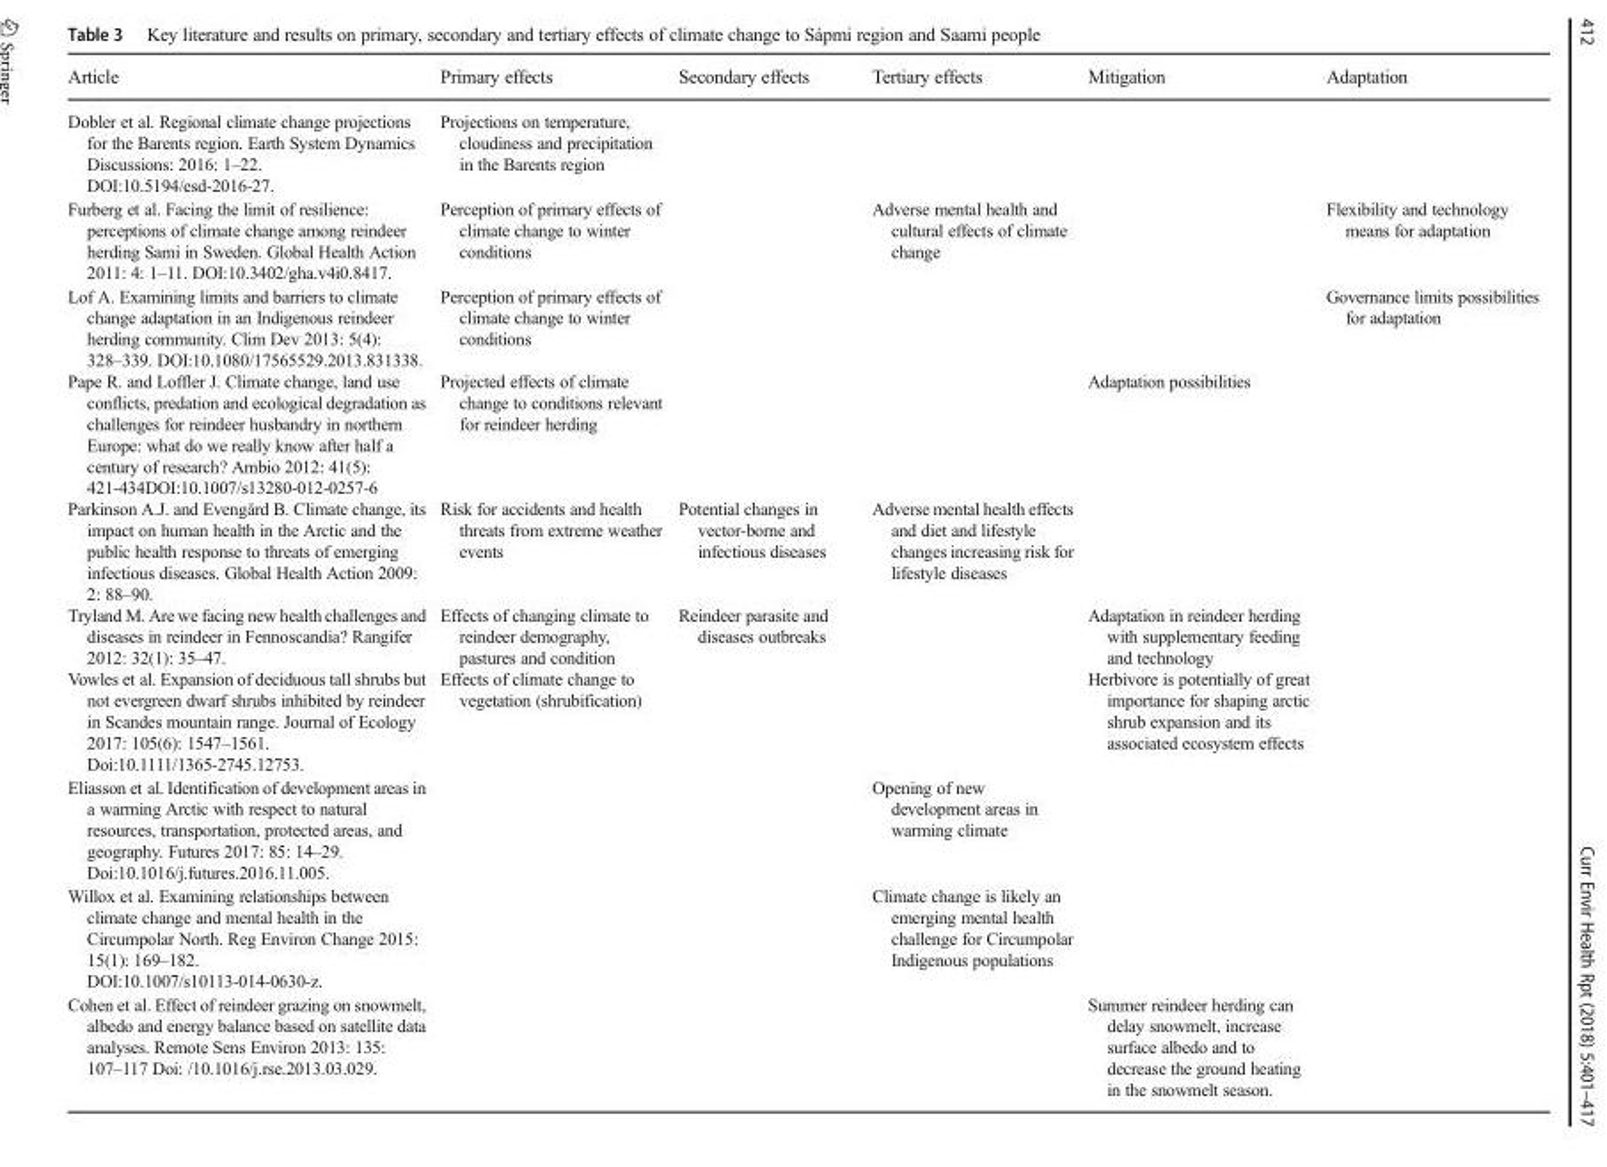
<table><thead><tr><td>Article</td><td>Primary effects</td><td>Secondary effects</td><td>Tertiary effects</td><td>Mitigation</td><td>Adaptation</td></tr></thead><tbody><tr><td>Dobler et al. Regional climate change projections for the Barents region. Earth System Dynamics Discussions: 2016: 1–22. DOI:10.5194/esd-2016-27.</td><td>Projections on temperature, cloudiness and precipitation in the Barents region</td><td></td><td></td><td></td><td></td></tr><tr><td>Furberg et al. Facing the limit of resilience: perceptions of climate change among reindeer herding Sami in Sweden. Global Health Action 2011: 4: 1–11. DOI:10.3402/gha.v4i0.8417.</td><td>Perception of primary effects of climate change to winter conditions</td><td></td><td>Adverse mental health and cultural effects of climate change</td><td></td><td>Flexibility and technology means for adaptation</td></tr><tr><td>Lof A. Examining limits and barriers to climate change adaptation in an Indigenous reindeer herding community. Clim Dev 2013: 5(4): 328–339. DOI:10.1080/17565529.2013.831338.</td><td>Perception of primary effects of climate change to winter conditions</td><td></td><td></td><td></td><td>Governance limits possibilities for adaptation</td></tr><tr><td>Pape R. and Loffler J. Climate change, land use conflicts, predation and ecological degradation as challenges for reindeer husbandry in northern Europe: what do we really know after half a century of research? Ambio 2012: 41(5): 421-434DOI:10.1007/s13280-012-0257-6</td><td>Projected effects of climate change to conditions relevant for reindeer herding</td><td></td><td></td><td>Adaptation possibilities</td><td></td></tr><tr><td>Parkinson A.J. and Evengård B. Climate change, its impact on human health in the Arctic and the public health response to threats of emerging infectious diseases. Global Health Action 2009: 2: 88–90.</td><td>Risk for accidents and health threats from extreme weather events</td><td>Potential changes in vector-borne and infectious diseases</td><td>Adverse mental health effects and diet and lifestyle changes increasing risk for lifestyle diseases</td><td></td><td></td></tr><tr><td>Tryland M. Are we facing new health challenges and diseases in reindeer in Fennoscandia? Rangifer 2012: 32(1): 35–47.</td><td>Effects of changing climate to reindeer demography, pastures and condition</td><td>Reindeer parasite and diseases outbreaks</td><td></td><td>Adaptation in reindeer herding with supplementary feeding and technology</td><td></td></tr><tr><td>Vowles et al. Expansion of deciduous tall shrubs but not evergreen dwarf shrubs inhibited by reindeer in Scandes mountain range. Journal of Ecology 2017: 105(6): 1547–1561. Doi:10.1111/1365-2745.12753.</td><td>Effects of climate change to vegetation (shrubification)</td><td></td><td></td><td>Herbivore is potentially of great importance for shaping arctic shrub expansion and its associated ecosystem effects</td><td></td></tr><tr><td>Eliasson et al. Identification of development areas in a warming Arctic with respect to natural resources, transportation, protected areas, and geography. Futures 2017: 85: 14–29. Doi:10.1016/j.futures.2016.11.005.</td><td></td><td></td><td>Opening of new development areas in warming climate</td><td></td><td></td></tr><tr><td>Willox et al. Examining relationships between climate change and mental health in the Circumpolar North. Reg Environ Change 2015: 15(1): 169–182. DOI:10.1007/s10113-014-0630-z.</td><td></td><td></td><td>Climate change is likely an emerging mental health challenge for Circumpolar Indigenous populations</td><td></td><td></td></tr><tr><td>Cohen et al. Effect of reindeer grazing on snowmelt, albedo and energy balance based on satellite data analyses. Remote Sens Environ 2013: 135: 107–117 Doi: /10.1016/j.rse.2013.03.029.</td><td></td><td></td><td></td><td>Summer reindeer herding can delay snowmelt, increase surface albedo and to decrease the ground heating in the snowmelt season.</td><td></td></tr></tbody></table>